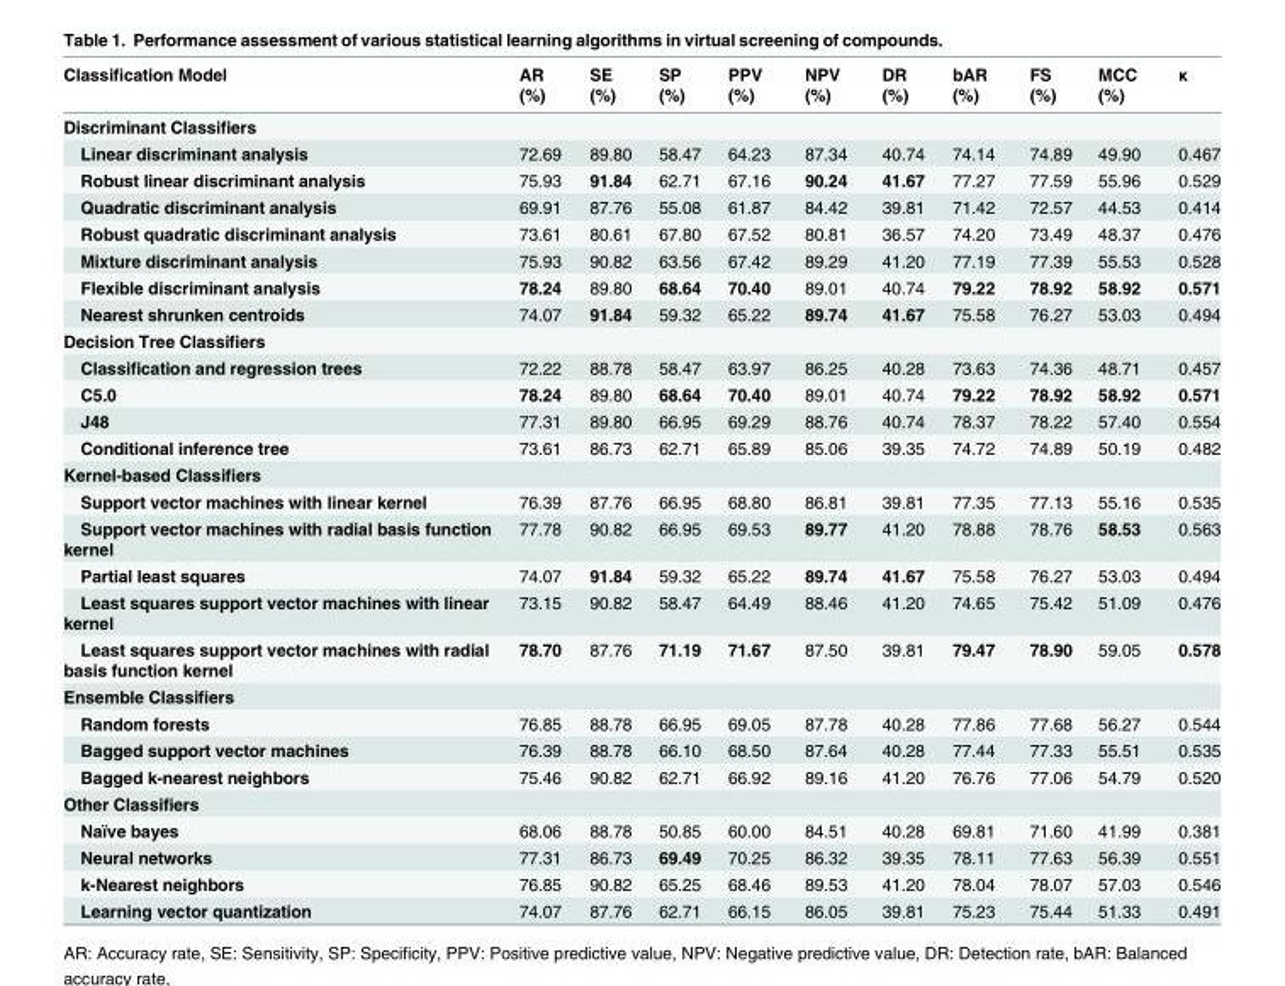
<table><thead><tr><td>Classification Model</td><td>AR (%)</td><td>SE (%)</td><td>SP (%)</td><td>PPV (%)</td><td>NPV (%)</td><td>DR (%)</td><td>bAR (%)</td><td>FS (%)</td><td>MCC (%)</td><td>κ</td></tr></thead><tbody><tr><td colspan="11">Discriminant Classifiers</td></tr><tr><td>Linear discriminant analysis</td><td>72.69</td><td>89.80</td><td>58.47</td><td>64.23</td><td>87.34</td><td>40.74</td><td>74.14</td><td>74.89</td><td>49.90</td><td>0.467</td></tr><tr><td>Robust linear discriminant analysis</td><td>75.93</td><td>91.84</td><td>62.71</td><td>67.16</td><td>90.24</td><td>41.67</td><td>77.27</td><td>77.59</td><td>55.96</td><td>0.529</td></tr><tr><td>Quadratic discriminant analysis</td><td>69.91</td><td>87.76</td><td>55.08</td><td>61.87</td><td>84.42</td><td>39.81</td><td>71.42</td><td>72.57</td><td>44.53</td><td>0.414</td></tr><tr><td>Robust quadratic discriminant analysis</td><td>73.61</td><td>80.61</td><td>67.80</td><td>67.52</td><td>80.81</td><td>36.57</td><td>74.20</td><td>73.49</td><td>48.37</td><td>0.476</td></tr><tr><td>Mixture discriminant analysis</td><td>75.93</td><td>90.82</td><td>63.56</td><td>67.42</td><td>89.29</td><td>41.20</td><td>77.19</td><td>77.39</td><td>55.53</td><td>0.528</td></tr><tr><td>Flexible discriminant analysis</td><td>78.24</td><td>89.80</td><td>68.64</td><td>70.40</td><td>89.01</td><td>40.74</td><td>79.22</td><td>78.92</td><td>58.92</td><td>0.571</td></tr><tr><td>Nearest shrunken centroids</td><td>74.07</td><td>91.84</td><td>59.32</td><td>65.22</td><td>89.74</td><td>41.67</td><td>75.58</td><td>76.27</td><td>53.03</td><td>0.494</td></tr><tr><td colspan="11">Decision Tree Classifiers</td></tr><tr><td>Classification and regression trees</td><td>72.22</td><td>88.78</td><td>58.47</td><td>63.97</td><td>86.25</td><td>40.28</td><td>73.63</td><td>74.36</td><td>48.71</td><td>0.457</td></tr><tr><td>C5.0</td><td>78.24</td><td>89.80</td><td>68.64</td><td>70.40</td><td>89.01</td><td>40.74</td><td>79.22</td><td>78.92</td><td>58.92</td><td>0.571</td></tr><tr><td>J48</td><td>77.31</td><td>89.80</td><td>66.95</td><td>69.29</td><td>88.76</td><td>40.74</td><td>78.37</td><td>78.22</td><td>57.40</td><td>0.554</td></tr><tr><td>Conditional inference tree</td><td>73.61</td><td>86.73</td><td>62.71</td><td>65.89</td><td>85.06</td><td>39.35</td><td>74.72</td><td>74.89</td><td>50.19</td><td>0.482</td></tr><tr><td colspan="11">Kernel-based Classifiers</td></tr><tr><td>Support vector machines with linear kernel</td><td>76.39</td><td>87.76</td><td>66.95</td><td>68.80</td><td>86.81</td><td>39.81</td><td>77.35</td><td>77.13</td><td>55.16</td><td>0.535</td></tr><tr><td>Support vector machines with radial basis function kernel</td><td>77.78</td><td>90.82</td><td>66.95</td><td>69.53</td><td>89.77</td><td>41.20</td><td>78.88</td><td>78.76</td><td>58.53</td><td>0.563</td></tr><tr><td>Partial least squares</td><td>74.07</td><td>91.84</td><td>59.32</td><td>65.22</td><td>89.74</td><td>41.67</td><td>75.58</td><td>76.27</td><td>53.03</td><td>0.494</td></tr><tr><td>Least squares support vector machines with linear kernel</td><td>73.15</td><td>90.82</td><td>58.47</td><td>64.49</td><td>88.46</td><td>41.20</td><td>74.65</td><td>75.42</td><td>51.09</td><td>0.476</td></tr><tr><td>Least squares support vector machines with radial basis function kernel</td><td>78.70</td><td>87.76</td><td>71.19</td><td>71.67</td><td>87.50</td><td>39.81</td><td>79.47</td><td>78.90</td><td>59.05</td><td>0.578</td></tr><tr><td colspan="11">Ensemble Classifiers</td></tr><tr><td>Random forests</td><td>76.85</td><td>88.78</td><td>66.95</td><td>69.05</td><td>87.78</td><td>40.28</td><td>77.86</td><td>77.68</td><td>56.27</td><td>0.544</td></tr><tr><td>Bagged support vector machines</td><td>76.39</td><td>88.78</td><td>66.10</td><td>68.50</td><td>87.64</td><td>40.28</td><td>77.44</td><td>77.33</td><td>55.51</td><td>0.535</td></tr><tr><td>Bagged k-nearest neighbors</td><td>75.46</td><td>90.82</td><td>62.71</td><td>66.92</td><td>89.16</td><td>41.20</td><td>76.76</td><td>77.06</td><td>54.79</td><td>0.520</td></tr><tr><td colspan="11">Other Classifiers</td></tr><tr><td>Naïve bayes</td><td>68.06</td><td>88.78</td><td>50.85</td><td>60.00</td><td>84.51</td><td>40.28</td><td>69.81</td><td>71.60</td><td>41.99</td><td>0.381</td></tr><tr><td>Neural networks</td><td>77.31</td><td>86.73</td><td>69.49</td><td>70.25</td><td>86.32</td><td>39.35</td><td>78.11</td><td>77.63</td><td>56.39</td><td>0.551</td></tr><tr><td>k-Nearest neighbors</td><td>76.85</td><td>90.82</td><td>65.25</td><td>68.46</td><td>89.53</td><td>41.20</td><td>78.04</td><td>78.07</td><td>57.03</td><td>0.546</td></tr><tr><td>Learning vector quantization</td><td>74.07</td><td>87.76</td><td>62.71</td><td>66.15</td><td>86.05</td><td>39.81</td><td>75.23</td><td>75.44</td><td>51.33</td><td>0.491</td></tr></tbody></table>